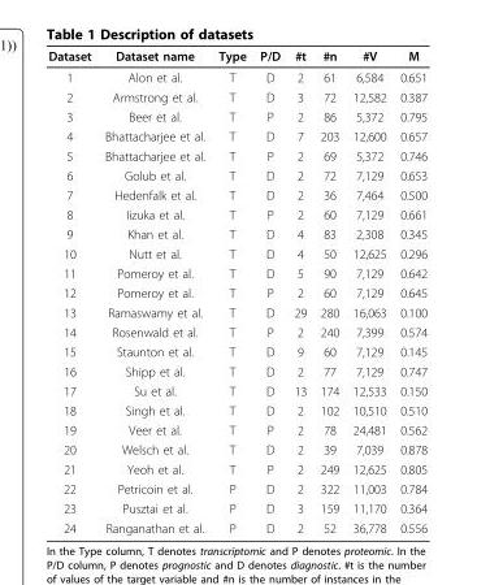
<table><thead><tr><td>Dataset</td><td>Dataset name</td><td>Type</td><td>P/D</td><td>#t</td><td>#n</td><td>#V</td><td>M</td></tr></thead><tbody><tr><td>1</td><td>Alon et al.</td><td>T</td><td>D</td><td>2</td><td>61</td><td>6,584</td><td>0.651</td></tr><tr><td>2</td><td>Armstrong et al.</td><td>T</td><td>D</td><td>3</td><td>72</td><td>12,582</td><td>0.387</td></tr><tr><td>3</td><td>Beer et al.</td><td>T</td><td>P</td><td>2</td><td>86</td><td>5,372</td><td>0.795</td></tr><tr><td>4</td><td>Bhattacharjee et al.</td><td>T</td><td>D</td><td>7</td><td>203</td><td>12,600</td><td>0.657</td></tr><tr><td>5</td><td>Bhattacharjee et al.</td><td>T</td><td>P</td><td>2</td><td>69</td><td>5,372</td><td>0.746</td></tr><tr><td>6</td><td>Golub et al.</td><td>T</td><td>D</td><td>2</td><td>72</td><td>7,129</td><td>0.653</td></tr><tr><td>7</td><td>Hedenfalk et al.</td><td>T</td><td>D</td><td>2</td><td>36</td><td>7,464</td><td>0.500</td></tr><tr><td>8</td><td>Iizuka et al.</td><td>T</td><td>P</td><td>2</td><td>60</td><td>7,129</td><td>0.661</td></tr><tr><td>9</td><td>Khan et al.</td><td>T</td><td>D</td><td>4</td><td>83</td><td>2,308</td><td>0.345</td></tr><tr><td>10</td><td>Nutt et al.</td><td>T</td><td>D</td><td>4</td><td>50</td><td>12,625</td><td>0.296</td></tr><tr><td>11</td><td>Pomeroy et al.</td><td>T</td><td>D</td><td>5</td><td>90</td><td>7,129</td><td>0.642</td></tr><tr><td>12</td><td>Pomeroy et al.</td><td>T</td><td>P</td><td>2</td><td>60</td><td>7,129</td><td>0.645</td></tr><tr><td>13</td><td>Ramaswamy et al.</td><td>T</td><td>D</td><td>29</td><td>280</td><td>16,063</td><td>0.100</td></tr><tr><td>14</td><td>Rosenwald et al.</td><td>T</td><td>P</td><td>2</td><td>240</td><td>7,399</td><td>0.574</td></tr><tr><td>15</td><td>Staunton et al.</td><td>T</td><td>D</td><td>9</td><td>60</td><td>7,129</td><td>0.145</td></tr><tr><td>16</td><td>Shipp et al.</td><td>T</td><td>D</td><td>2</td><td>77</td><td>7,129</td><td>0.747</td></tr><tr><td>17</td><td>Su et al.</td><td>T</td><td>D</td><td>13</td><td>174</td><td>12,533</td><td>0.150</td></tr><tr><td>18</td><td>Singh et al.</td><td>T</td><td>D</td><td>2</td><td>102</td><td>10,510</td><td>0.510</td></tr><tr><td>19</td><td>Veer et al.</td><td>T</td><td>P</td><td>2</td><td>78</td><td>24,481</td><td>0.562</td></tr><tr><td>20</td><td>Welsch et al.</td><td>T</td><td>D</td><td>2</td><td>39</td><td>7,039</td><td>0.878</td></tr><tr><td>21</td><td>Yeoh et al.</td><td>T</td><td>P</td><td>2</td><td>249</td><td>12,625</td><td>0.805</td></tr><tr><td>22</td><td>Petricoin et al.</td><td>P</td><td>D</td><td>2</td><td>322</td><td>11,003</td><td>0.784</td></tr><tr><td>23</td><td>Pusztai et al.</td><td>P</td><td>D</td><td>3</td><td>159</td><td>11,170</td><td>0.364</td></tr><tr><td>24</td><td>Ranganathan et al.</td><td>P</td><td>D</td><td>2</td><td>52</td><td>36,778</td><td>0.556</td></tr></tbody></table>